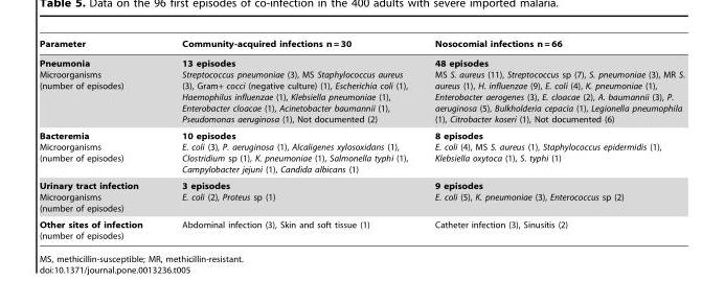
<table><thead><tr><td>Parameter</td><td>Community-acquired infections n = 30</td><td>Nosocomial infections n = 66</td></tr></thead><tbody><tr><td>Pneumonia Microorganisms (number of episodes)</td><td>13 episodes Streptococcus pneumoniae (3), MS Staphylococcus aureus (3), Gram+ cocci (negative culture) (1), Escherichia coli (1), Haemophilus influenzae (1), Klebsiella pneumoniae (1), Enterobacter cloacae (1), Acinetobacter baumannii (1), Pseudomonas aeruginosa (1), Not documented (2)</td><td>48 episodes MS S. aureus (11), Streptococcus sp (7), S. pneumoniae (3), MR S. aureus (1), H. influenzae (9), E. coli (4), K. pneumoniae (1), Enterobacter aerogenes (3), E. cloacae (2), A. baumannii (3), P. aeruginosa (5), Bulkholderia cepacia (1), Legionella pneumophila (1), Citrobacter koseri (1), Not documented (6)</td></tr><tr><td>Bacteremia Microorganisms (number of episodes)</td><td>10 episodes E. coli (3), P. aeruginosa (1), Alcaligenes xylosoxidans (1), Clostridium sp (1), K. pneumoniae (1), Salmonella typhi (1), Campylobacter jejuni (1), Candida albicans (1)</td><td>8 episodes E. coli (4), MS S. aureus (1), Staphylococcus epidermidis (1), Klebsiella oxytoca (1), S. typhi (1)</td></tr><tr><td>Urinary tract infection Microorganisms (number of episodes)</td><td>3 episodes E. coli (2), Proteus sp (1)</td><td>9 episodes E. coli (5), K. pneumoniae (3), Enterococcus sp (2)</td></tr><tr><td>Other sites of infection (number of episodes)</td><td>Abdominal infection (3), Skin and soft tissue (1)</td><td>Catheter infection (3), Sinusitis (2)</td></tr></tbody></table>